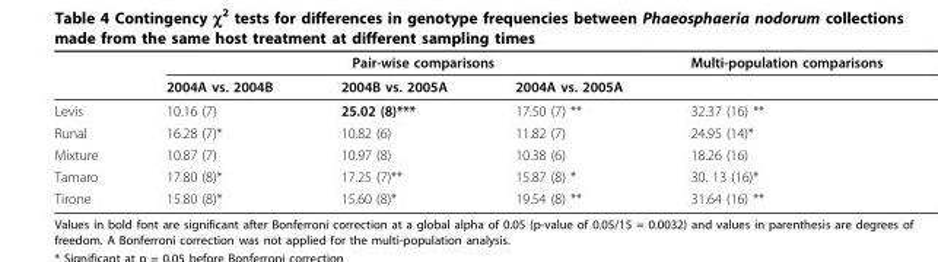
<table><thead><tr><td rowspan="2"></td><td colspan="3">Pair-wise comparisons</td><td rowspan="2">Multi-population comparisons</td></tr><tr><td>2004A vs. 2004B</td><td>2004B vs. 2005A</td><td>2004A vs. 2005A</td></tr></thead><tbody><tr><td>Levis</td><td>10.16 (7)</td><td>25.02 (8)***</td><td>17.50 (7) **</td><td>32.37 (16) **</td></tr><tr><td>Runal</td><td>16.28 (7)*</td><td>10.82 (6)</td><td>11.82 (7)</td><td>24.95 (14)*</td></tr><tr><td>Mixture</td><td>10.87 (7)</td><td>10.97 (8)</td><td>10.38 (6)</td><td>18.26 (16)</td></tr><tr><td>Tamaro</td><td>17.80 (8)*</td><td>17.25 (7)**</td><td>15.87 (8) *</td><td>30. 13 (16)*</td></tr><tr><td>Tirone</td><td>15.80 (8)*</td><td>15.60 (8)*</td><td>19.54 (8) **</td><td>31.64 (16) **</td></tr></tbody></table>